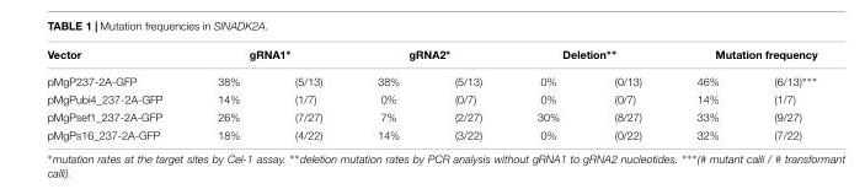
<table><thead><tr><td rowspan="2">Vector pMgP237-2A-GFP</td><td colspan="2">gRNA1∗</td><td colspan="2">gRNA2∗</td><td colspan="2">Deletion∗∗</td><td colspan="2">Mutation frequency</td></tr><tr><td>38%</td><td>(5/13)</td><td>38%</td><td>(5/13)</td><td>0%</td><td>(0/13)</td><td>46%</td><td>(6/13)∗∗∗</td></tr></thead><tbody><tr><td>pMgPubi4_237-2A-GFP</td><td>14%</td><td>(1/7)</td><td>0%</td><td>(0/7)</td><td>0%</td><td>(0/7)</td><td>14%</td><td>(1/7)</td></tr><tr><td>pMgPsef1_237-2A-GFP</td><td>26%</td><td>(7/27)</td><td>7%</td><td>(2/27)</td><td>30%</td><td>(8/27)</td><td>33%</td><td>(9/27)</td></tr><tr><td>pMgPs16_237-2A-GFP</td><td>18%</td><td>(4/22)</td><td>14%</td><td>(3/22)</td><td>0%</td><td>(0/22)</td><td>32%</td><td>(7/22)</td></tr></tbody></table>